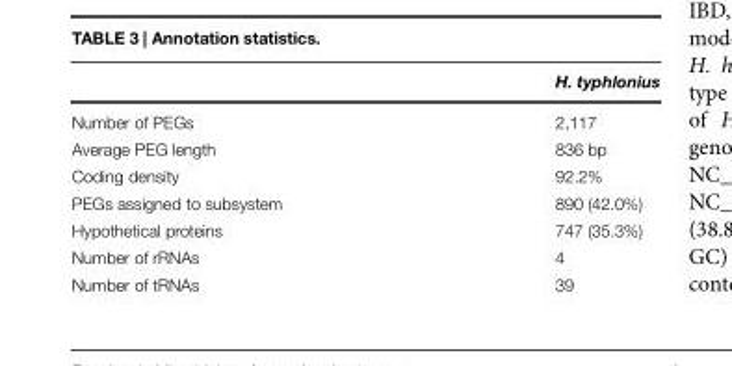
<table><thead><tr><td></td><td>H. typhlonius</td></tr></thead><tbody><tr><td>Number of PEGs</td><td>2,117</td></tr><tr><td>Average PEG length</td><td>836 bp</td></tr><tr><td>Coding density</td><td>92.2%</td></tr><tr><td>PEGs assigned to subsystem</td><td>890 (42.0%)</td></tr><tr><td>Hypothetical proteins</td><td>747 (35.3%)</td></tr><tr><td>Number of rRNAs</td><td>4</td></tr><tr><td>Number of tRNAs</td><td>39</td></tr></tbody></table>